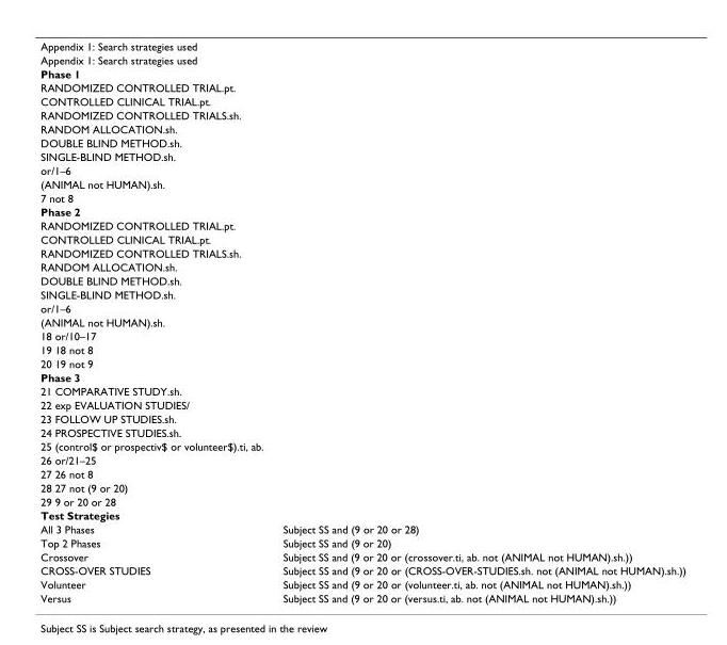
<table><tbody><tr><td colspan="2">Appendix 1: Search strategies used</td></tr><tr><td colspan="2">Appendix 1: Search strategies used</td></tr><tr><td colspan="2">Phase 1</td></tr><tr><td colspan="2">RANDOMIZED CONTROLLED TRIAL.pt.</td></tr><tr><td colspan="2">CONTROLLED CLINICAL TRIAL.pt.</td></tr><tr><td colspan="2">RANDOMIZED CONTROLLED TRIALS.sh.</td></tr><tr><td colspan="2">RANDOM ALLOCATION.sh.</td></tr><tr><td colspan="2">DOUBLE BLIND METHOD.sh.</td></tr><tr><td colspan="2">SINGLE-BLIND METHOD.sh.</td></tr><tr><td colspan="2">or/1–6</td></tr><tr><td colspan="2">(ANIMAL not HUMAN).sh.</td></tr><tr><td colspan="2">7 not 8</td></tr><tr><td colspan="2">Phase 2</td></tr><tr><td colspan="2">RANDOMIZED CONTROLLED TRIAL.pt.</td></tr><tr><td colspan="2">CONTROLLED CLINICAL TRIAL.pt.</td></tr><tr><td colspan="2">RANDOMIZED CONTROLLED TRIALS.sh.</td></tr><tr><td colspan="2">RANDOM ALLOCATION.sh.</td></tr><tr><td colspan="2">DOUBLE BLIND METHOD.sh.</td></tr><tr><td colspan="2">SINGLE-BLIND METHOD.sh.</td></tr><tr><td colspan="2">or/1–6</td></tr><tr><td colspan="2">(ANIMAL not HUMAN).sh.</td></tr><tr><td colspan="2">18 or/10–17</td></tr><tr><td colspan="2">19 18 not 8</td></tr><tr><td colspan="2">20 19 not 9</td></tr><tr><td colspan="2">Phase 3</td></tr><tr><td colspan="2">21 COMPARATIVE STUDY.sh.</td></tr><tr><td colspan="2">22 exp EVALUATION STUDIES/</td></tr><tr><td colspan="2">23 FOLLOW UP STUDIES.sh.</td></tr><tr><td colspan="2">24 PROSPECTIVE STUDIES.sh.</td></tr><tr><td colspan="2">25 (control$ or prospectiv$ or volunteer$).ti, ab.</td></tr><tr><td colspan="2">26 or/21–25</td></tr><tr><td colspan="2">27 26 not 8</td></tr><tr><td colspan="2">28 27 not (9 or 20)</td></tr><tr><td colspan="2">29 9 or 20 or 28</td></tr><tr><td colspan="2">Test Strategies</td></tr><tr><td>All 3 Phases</td><td>Subject SS and (9 or 20 or 28)</td></tr><tr><td>Top 2 Phases</td><td>Subject SS and (9 or 20)</td></tr><tr><td>Crossover</td><td>Subject SS and (9 or 20 or (crossover.ti, ab. not (ANIMAL not HUMAN).sh.))</td></tr><tr><td>CROSS-OVER STUDIES</td><td>Subject SS and (9 or 20 or (CROSS-OVER-STUDIES.sh. not (ANIMAL not HUMAN).sh.))</td></tr><tr><td>Volunteer</td><td>Subject SS and (9 or 20 or (volunteer.ti, ab. not (ANIMAL not HUMAN).sh.))</td></tr><tr><td>Versus</td><td>Subject SS and (9 or 20 or (versus.ti, ab. not (ANIMAL not HUMAN).sh.))</td></tr></tbody></table>